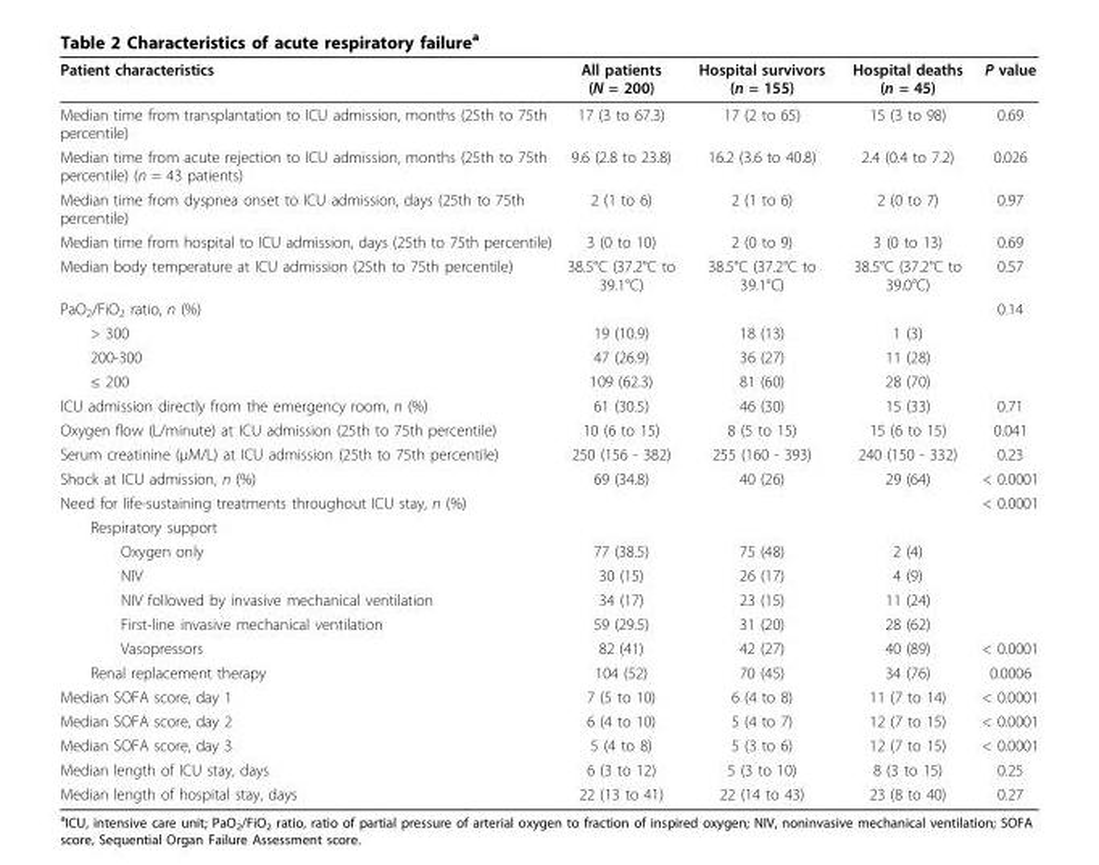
<table><thead><tr><td>Patient characteristics</td><td>All patients (N = 200)</td><td>Hospital survivors (n = 155)</td><td>Hospital deaths (n = 45)</td><td>P value</td></tr></thead><tbody><tr><td>Median time from transplantation to ICU admission, months (25th to 75th percentile)</td><td>17 (3 to 67.3)</td><td>17 (2 to 65)</td><td>15 (3 to 98)</td><td>0.69</td></tr><tr><td>Median time from acute rejection to ICU admission, months (25th to 75th percentile) (n = 43 patients)</td><td>9.6 (2.8 to 23.8)</td><td>16.2 (3.6 to 40.8)</td><td>2.4 (0.4 to 7.2)</td><td>0.026</td></tr><tr><td>Median time from dyspnea onset to ICU admission, days (25th to 75th percentile)</td><td>2 (1 to 6)</td><td>2 (1 to 6)</td><td>2 (0 to 7)</td><td>0.97</td></tr><tr><td>Median time from hospital to ICU admission, days (25th to 75th percentile)</td><td>3 (0 to 10)</td><td>2 (0 to 9)</td><td>3 (0 to 13)</td><td>0.69</td></tr><tr><td>Median body temperature at ICU admission (25th to 75th percentile)</td><td>38.5°C (37.2°C to 39.1°C)</td><td>38.5°C (37.2°C to 39.1°C)</td><td>38.5°C (37.2°C to 39.0°C)</td><td>0.57</td></tr><tr><td>PaO<sub>2</sub>/FiO<sub>2</sub> ratio, n (%)</td><td></td><td></td><td></td><td>0.14</td></tr><tr><td>&gt; 300</td><td>19 (10.9)</td><td>18 (13)</td><td>1 (3)</td><td></td></tr><tr><td>200-300</td><td>47 (26.9)</td><td>36 (27)</td><td>11 (28)</td><td></td></tr><tr><td>≤ 200</td><td>109 (62.3)</td><td>81 (60)</td><td>28 (70)</td><td></td></tr><tr><td>ICU admission directly from the emergency room, n (%)</td><td>61 (30.5)</td><td>46 (30)</td><td>15 (33)</td><td>0.71</td></tr><tr><td>Oxygen flow (L/minute) at ICU admission (25th to 75th percentile)</td><td>10 (6 to 15)</td><td>8 (5 to 15)</td><td>15 (6 to 15)</td><td>0.041</td></tr><tr><td>Serum creatinine (μM/L) at ICU admission (25th to 75th percentile)</td><td>250 (156 - 382)</td><td>255 (160 - 393)</td><td>240 (150 - 332)</td><td>0.23</td></tr><tr><td>Shock at ICU admission, n (%)</td><td>69 (34.8)</td><td>40 (26)</td><td>29 (64)</td><td>&lt; 0.0001</td></tr><tr><td>Need for life-sustaining treatments throughout ICU stay, n (%)</td><td></td><td></td><td></td><td>&lt; 0.0001</td></tr><tr><td colspan="5">Respiratory support</td></tr><tr><td>Oxygen only</td><td>77 (38.5)</td><td>75 (48)</td><td>2 (4)</td><td></td></tr><tr><td>NIV</td><td>30 (15)</td><td>26 (17)</td><td>4 (9)</td><td></td></tr><tr><td>NIV followed by invasive mechanical ventilation</td><td>34 (17)</td><td>23 (15)</td><td>11 (24)</td><td></td></tr><tr><td>First-line invasive mechanical ventilation</td><td>59 (29.5)</td><td>31 (20)</td><td>28 (62)</td><td></td></tr><tr><td>Vasopressors</td><td>82 (41)</td><td>42 (27)</td><td>40 (89)</td><td>&lt; 0.0001</td></tr><tr><td>Renal replacement therapy</td><td>104 (52)</td><td>70 (45)</td><td>34 (76)</td><td>0.0006</td></tr><tr><td>Median SOFA score, day 1</td><td>7 (5 to 10)</td><td>6 (4 to 8)</td><td>11 (7 to 14)</td><td>&lt; 0.0001</td></tr><tr><td>Median SOFA score, day 2</td><td>6 (4 to 10)</td><td>5 (4 to 7)</td><td>12 (7 to 15)</td><td>&lt; 0.0001</td></tr><tr><td>Median SOFA score, day 3</td><td>5 (4 to 8)</td><td>5 (3 to 6)</td><td>12 (7 to 15)</td><td>&lt; 0.0001</td></tr><tr><td>Median length of ICU stay, days</td><td>6 (3 to 12)</td><td>5 (3 to 10)</td><td>8 (3 to 15)</td><td>0.25</td></tr><tr><td>Median length of hospital stay, days</td><td>22 (13 to 41)</td><td>22 (14 to 43)</td><td>23 (8 to 40)</td><td>0.27</td></tr></tbody></table>